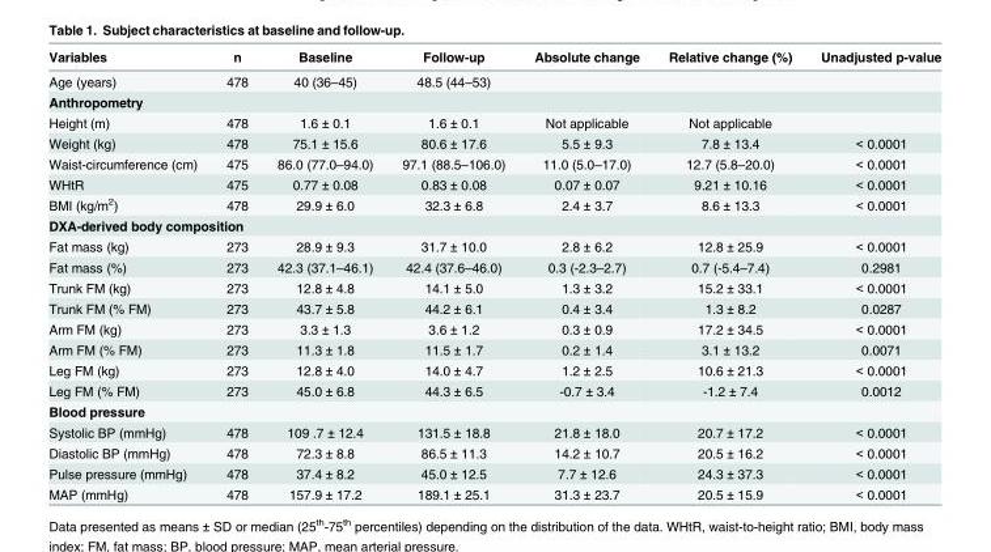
<table><thead><tr><td>Variables</td><td>n</td><td>Baseline</td><td>Follow-up</td><td>Absolute change</td><td>Relative change (%)</td><td>Unadjusted p-value</td></tr></thead><tbody><tr><td>Age (years)</td><td>478</td><td>40 (36–45)</td><td>48.5 (44–53)</td><td></td><td></td><td></td></tr><tr><td colspan="7">Anthropometry</td></tr><tr><td>Height (m)</td><td>478</td><td>1.6 ± 0.1</td><td>1.6 ± 0.1</td><td>Not applicable</td><td>Not applicable</td><td></td></tr><tr><td>Weight (kg)</td><td>478</td><td>75.1 ± 15.6</td><td>80.6 ± 17.6</td><td>5.5 ± 9.3</td><td>7.8 ± 13.4</td><td>&lt; 0.0001</td></tr><tr><td>Waist-circumference (cm)</td><td>475</td><td>86.0 (77.0–94.0)</td><td>97.1 (88.5–106.0)</td><td>11.0 (5.0–17.0)</td><td>12.7 (5.8–20.0)</td><td>&lt; 0.0001</td></tr><tr><td>WHtR</td><td>475</td><td>0.77 ± 0.08</td><td>0.83 ± 0.08</td><td>0.07 ± 0.07</td><td>9.21 ± 10.16</td><td>&lt; 0.0001</td></tr><tr><td>BMI (kg/m<sup>2</sup>)</td><td>478</td><td>29.9 ± 6.0</td><td>32.3 ± 6.8</td><td>2.4 ± 3.7</td><td>8.6 ± 13.3</td><td>&lt; 0.0001</td></tr><tr><td colspan="7">DXA-derived body composition</td></tr><tr><td>Fat mass (kg)</td><td>273</td><td>28.9 ± 9.3</td><td>31.7 ± 10.0</td><td>2.8 ± 6.2</td><td>12.8 ± 25.9</td><td>&lt; 0.0001</td></tr><tr><td>Fat mass (%)</td><td>273</td><td>42.3 (37.1–46.1)</td><td>42.4 (37.6–46.0)</td><td>0.3 (-2.3–2.7)</td><td>0.7 (-5.4–7.4)</td><td>0.2981</td></tr><tr><td>Trunk FM (kg)</td><td>273</td><td>12.8 ± 4.8</td><td>14.1 ± 5.0</td><td>1.3 ± 3.2</td><td>15.2 ± 33.1</td><td>&lt; 0.0001</td></tr><tr><td>Trunk FM (% FM)</td><td>273</td><td>43.7 ± 5.8</td><td>44.2 ± 6.1</td><td>0.4 ± 3.4</td><td>1.3 ± 8.2</td><td>0.0287</td></tr><tr><td>Arm FM (kg)</td><td>273</td><td>3.3 ± 1.3</td><td>3.6 ± 1.2</td><td>0.3 ± 0.9</td><td>17.2 ± 34.5</td><td>&lt; 0.0001</td></tr><tr><td>Arm FM (% FM)</td><td>273</td><td>11.3 ± 1.8</td><td>11.5 ± 1.7</td><td>0.2 ± 1.4</td><td>3.1 ± 13.2</td><td>0.0071</td></tr><tr><td>Leg FM (kg)</td><td>273</td><td>12.8 ± 4.0</td><td>14.0 ± 4.7</td><td>1.2 ± 2.5</td><td>10.6 ± 21.3</td><td>&lt; 0.0001</td></tr><tr><td>Leg FM (% FM)</td><td>273</td><td>45.0 ± 6.8</td><td>44.3 ± 6.5</td><td>-0.7 ± 3.4</td><td>-1.2 ± 7.4</td><td>0.0012</td></tr><tr><td colspan="7">Blood pressure</td></tr><tr><td>Systolic BP (mmHg)</td><td>478</td><td>109 .7 ± 12.4</td><td>131.5 ± 18.8</td><td>21.8 ± 18.0</td><td>20.7 ± 17.2</td><td>&lt; 0.0001</td></tr><tr><td>Diastolic BP (mmHg)</td><td>478</td><td>72.3 ± 8.8</td><td>86.5 ± 11.3</td><td>14.2 ± 10.7</td><td>20.5 ± 16.2</td><td>&lt; 0.0001</td></tr><tr><td>Pulse pressure (mmHg)</td><td>478</td><td>37.4 ± 8.2</td><td>45.0 ± 12.5</td><td>7.7 ± 12.6</td><td>24.3 ± 37.3</td><td>&lt; 0.0001</td></tr><tr><td>MAP (mmHg)</td><td>478</td><td>157.9 ± 17.2</td><td>189.1 ± 25.1</td><td>31.3 ± 23.7</td><td>20.5 ± 15.9</td><td>&lt; 0.0001</td></tr></tbody></table>